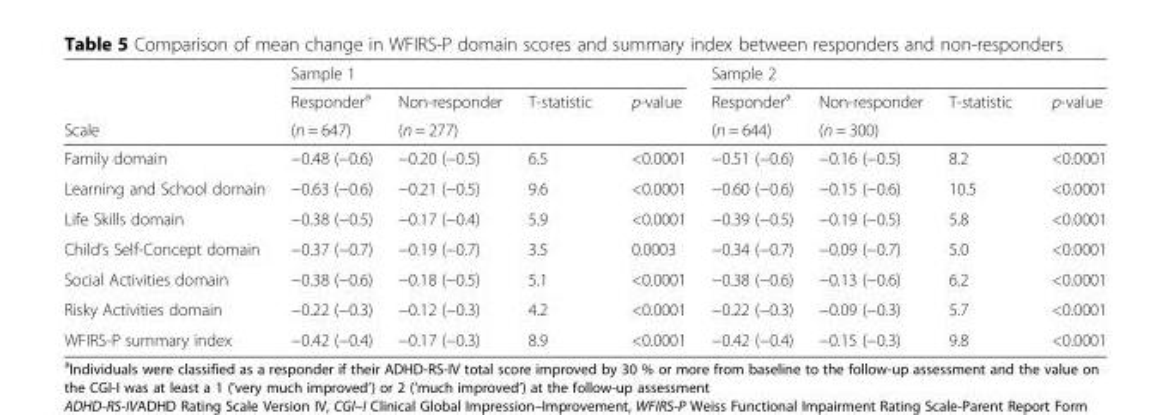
<table><thead><tr><td rowspan="3">Scale</td><td colspan="4">Sample 1</td><td colspan="4">Sample 2</td></tr><tr><td rowspan="2">Responder<sup>a</sup> (n = 647)</td><td rowspan="2">Non-responder (n = 277)</td><td rowspan="2">T-statistic</td><td rowspan="2">p-value</td><td rowspan="2">Responder<sup>a</sup> (n = 644)</td><td rowspan="2">Non-responder (n = 300)</td><td rowspan="2">T-statistic</td><td rowspan="2">p-value</td></tr><tr></tr></thead><tbody><tr><td>Family domain</td><td>−0.48 (−0.6)</td><td>−0.20 (−0.5)</td><td>6.5</td><td>&lt;0.0001</td><td>−0.51 (−0.6)</td><td>−0.16 (−0.5)</td><td>8.2</td><td>&lt;0.0001</td></tr><tr><td>Learning and School domain</td><td>−0.63 (−0.6)</td><td>−0.21 (−0.5)</td><td>9.6</td><td>&lt;0.0001</td><td>−0.60 (−0.6)</td><td>−0.15 (−0.6)</td><td>10.5</td><td>&lt;0.0001</td></tr><tr><td>Life Skills domain</td><td>−0.38 (−0.5)</td><td>−0.17 (−0.4)</td><td>5.9</td><td>&lt;0.0001</td><td>−0.39 (−0.5)</td><td>−0.19 (−0.5)</td><td>5.8</td><td>&lt;0.0001</td></tr><tr><td>Child’s Self-Concept domain</td><td>−0.37 (−0.7)</td><td>−0.19 (−0.7)</td><td>3.5</td><td>0.0003</td><td>−0.34 (−0.7)</td><td>−0.09 (−0.7)</td><td>5.0</td><td>&lt;0.0001</td></tr><tr><td>Social Activities domain</td><td>−0.38 (−0.6)</td><td>−0.18 (−0.5)</td><td>5.1</td><td>&lt;0.0001</td><td>−0.38 (−0.6)</td><td>−0.13 (−0.6)</td><td>6.2</td><td>&lt;0.0001</td></tr><tr><td>Risky Activities domain</td><td>−0.22 (−0.3)</td><td>−0.12 (−0.3)</td><td>4.2</td><td>&lt;0.0001</td><td>−0.22 (−0.3)</td><td>−0.09 (−0.3)</td><td>5.7</td><td>&lt;0.0001</td></tr><tr><td>WFIRS-P summary index</td><td>−0.42 (−0.4)</td><td>−0.17 (−0.3)</td><td>8.9</td><td>&lt;0.0001</td><td>−0.42 (−0.4)</td><td>−0.15 (−0.3)</td><td>9.8</td><td>&lt;0.0001</td></tr></tbody></table>